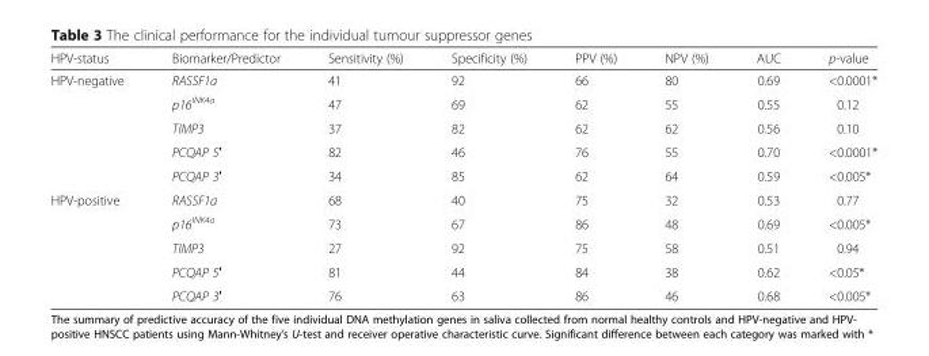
<table><thead><tr><td>HPV-status</td><td>Biomarker/Predictor</td><td>Sensitivity (%)</td><td>Specificity (%)</td><td>PPV (%)</td><td>NPV (%)</td><td>AUC</td><td>p-value</td></tr></thead><tbody><tr><td rowspan="5">HPV-negative</td><td>RASSF1a</td><td>41</td><td>92</td><td>66</td><td>80</td><td>0.69</td><td>&lt;0.0001*</td></tr><tr><td>p16<sup>INK4a</sup></td><td>47</td><td>69</td><td>62</td><td>55</td><td>0.55</td><td>0.12</td></tr><tr><td>TIMP3</td><td>37</td><td>82</td><td>62</td><td>62</td><td>0.56</td><td>0.10</td></tr><tr><td>PCQAP 5′</td><td>82</td><td>46</td><td>76</td><td>55</td><td>0.70</td><td>&lt;0.0001*</td></tr><tr><td>PCQAP 3′</td><td>34</td><td>85</td><td>62</td><td>64</td><td>0.59</td><td>&lt;0.005*</td></tr><tr><td rowspan="5">HPV-positive</td><td>RASSF1a</td><td>68</td><td>40</td><td>75</td><td>32</td><td>0.53</td><td>0.77</td></tr><tr><td>p16<sup>INK4a</sup></td><td>73</td><td>67</td><td>86</td><td>48</td><td>0.69</td><td>&lt;0.005*</td></tr><tr><td>TIMP3</td><td>27</td><td>92</td><td>75</td><td>58</td><td>0.51</td><td>0.94</td></tr><tr><td>PCQAP 5′</td><td>81</td><td>44</td><td>84</td><td>38</td><td>0.62</td><td>&lt;0.05*</td></tr><tr><td>PCQAP 3′</td><td>76</td><td>63</td><td>86</td><td>46</td><td>0.68</td><td>&lt;0.005*</td></tr></tbody></table>